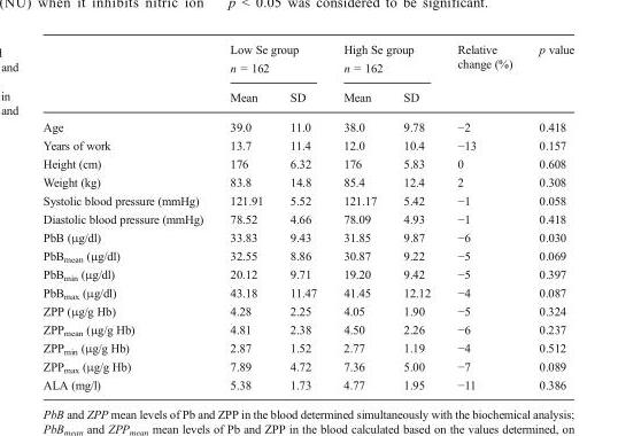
<table><thead><tr><td rowspan="2"></td><td colspan="2">Low Se group n = 162</td><td colspan="2">High Se group n = 162</td><td rowspan="2">Relative change (%)</td><td rowspan="2">p value</td></tr><tr><td>Mean</td><td>SD</td><td>Mean</td><td>SD</td></tr></thead><tbody><tr><td>Age</td><td>39.0</td><td>11.0</td><td>38.0</td><td>9.78</td><td>−2</td><td>0.418</td></tr><tr><td>Years of work</td><td>13.7</td><td>11.4</td><td>12.0</td><td>10.4</td><td>−13</td><td>0.157</td></tr><tr><td>Height (cm)</td><td>176</td><td>6.32</td><td>176</td><td>5.83</td><td>0</td><td>0.608</td></tr><tr><td>Weight (kg)</td><td>83.8</td><td>14.8</td><td>85.4</td><td>12.4</td><td>2</td><td>0.308</td></tr><tr><td>Systolic blood pressure (mmHg)</td><td>121.91</td><td>5.52</td><td>121.17</td><td>5.42</td><td>−1</td><td>0.058</td></tr><tr><td>Diastolic blood pressure (mmHg)</td><td>78.52</td><td>4.66</td><td>78.09</td><td>4.93</td><td>−1</td><td>0.418</td></tr><tr><td>PbB (μg/dl)</td><td>33.83</td><td>9.43</td><td>31.85</td><td>9.87</td><td>−6</td><td>0.030</td></tr><tr><td>PbB<sub>mean</sub> (μg/dl)</td><td>32.55</td><td>8.86</td><td>30.87</td><td>9.22</td><td>−5</td><td>0.069</td></tr><tr><td>PbB<sub>min</sub> (μg/dl)</td><td>20.12</td><td>9.71</td><td>19.20</td><td>9.42</td><td>−5</td><td>0.397</td></tr><tr><td>PbB<sub>max</sub> (μg/dl)</td><td>43.18</td><td>11.47</td><td>41.45</td><td>12.12</td><td>−4</td><td>0.087</td></tr><tr><td>ZPP (μg/g Hb)</td><td>4.28</td><td>2.25</td><td>4.05</td><td>1.90</td><td>−5</td><td>0.324</td></tr><tr><td>ZPP<sub>mean</sub> (μg/g Hb)</td><td>4.81</td><td>2.38</td><td>4.50</td><td>2.26</td><td>−6</td><td>0.237</td></tr><tr><td>ZPP<sub>min</sub> (μg/g Hb)</td><td>2.87</td><td>1.52</td><td>2.77</td><td>1.19</td><td>−4</td><td>0.512</td></tr><tr><td>ZPP<sub>max</sub> (μg/g Hb)</td><td>7.89</td><td>4.72</td><td>7.36</td><td>5.00</td><td>−7</td><td>0.089</td></tr><tr><td>ALA (mg/l)</td><td>5.38</td><td>1.73</td><td>4.77</td><td>1.95</td><td>−11</td><td>0.386</td></tr></tbody></table>